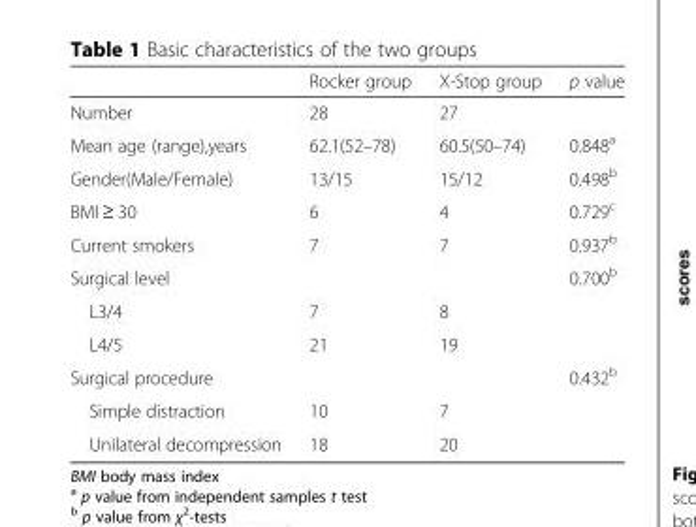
<table><thead><tr><td></td><td>Rocker group</td><td>X-Stop group</td><td>p value</td></tr></thead><tbody><tr><td>Number</td><td>28</td><td>27</td><td></td></tr><tr><td>Mean age (range),years</td><td>62.1(52–78)</td><td>60.5(50–74)</td><td>0.848<sup>a</sup></td></tr><tr><td>Gender(Male/Female)</td><td>13/15</td><td>15/12</td><td>0.498<sup>b</sup></td></tr><tr><td>BMI ≥ 30</td><td>6</td><td>4</td><td>0.729<sup>c</sup></td></tr><tr><td>Current smokers</td><td>7</td><td>7</td><td>0.937<sup>b</sup></td></tr><tr><td>Surgical level</td><td></td><td></td><td>0.700<sup>b</sup></td></tr><tr><td>L3/4</td><td>7</td><td>8</td><td></td></tr><tr><td>L4/5</td><td>21</td><td>19</td><td></td></tr><tr><td>Surgical procedure</td><td></td><td></td><td>0.432<sup>b</sup></td></tr><tr><td>Simple distraction</td><td>10</td><td>7</td><td></td></tr><tr><td>Unilateral decompression</td><td>18</td><td>20</td><td></td></tr></tbody></table>